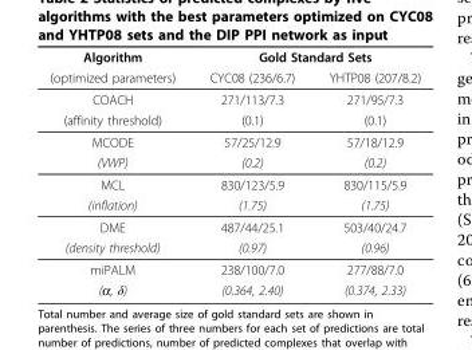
<table><thead><tr><td rowspan="2">Algorithm (optimized parameters)</td><td colspan="2">Gold Standard Sets</td></tr><tr><td>CYC08 (236/6.7)</td><td>YHTP08 (207/8.2)</td></tr></thead><tbody><tr><td>COACH</td><td>271/113/7.3</td><td>271/95/7.3</td></tr><tr><td>(affinity threshold)</td><td>(0.1)</td><td>(0.1)</td></tr><tr><td>MCODE</td><td>57/25/12.9</td><td>57/18/12.9</td></tr><tr><td>(VWP)</td><td>(0.2)</td><td>(0.2)</td></tr><tr><td>MCL</td><td>830/123/5.9</td><td>830/115/5.9</td></tr><tr><td>(inflation)</td><td>(1.75)</td><td>(1.75)</td></tr><tr><td>DME</td><td>487/44/25.1</td><td>503/40/24.7</td></tr><tr><td>(density threshold)</td><td>(0.97)</td><td>(0.96)</td></tr><tr><td>miPALM</td><td>238/100/7.0</td><td>277/88/7.0</td></tr><tr><td>(α, δ)</td><td>(0.364, 2.40)</td><td>(0.374, 2.33)</td></tr></tbody></table>